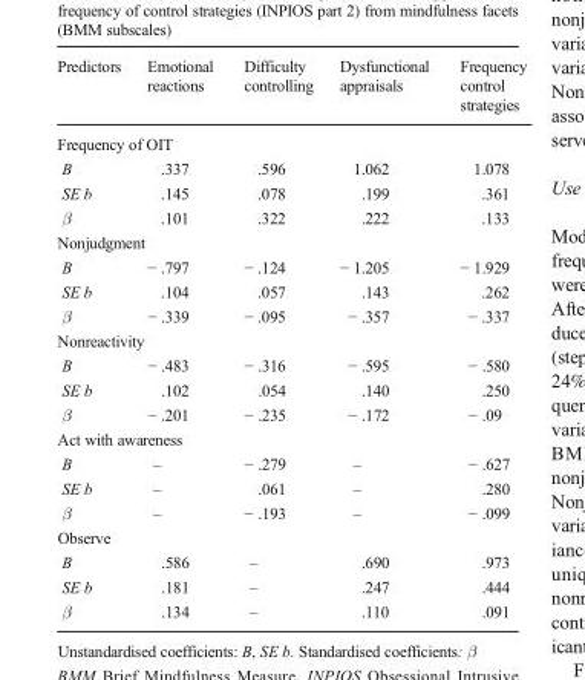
<table><thead><tr><td>Predictors</td><td>Emotional reactions</td><td>Difficulty controlling</td><td>Dysfunctional appraisals</td><td>Frequency control strategies</td></tr></thead><tbody><tr><td colspan="5">Frequency of OIT</td></tr><tr><td>B</td><td>.337</td><td>.596</td><td>1.062</td><td>1.078</td></tr><tr><td>SE b</td><td>.145</td><td>.078</td><td>.199</td><td>.361</td></tr><tr><td>β</td><td>.101</td><td>.322</td><td>.222</td><td>.133</td></tr><tr><td colspan="5">Nonjudgment</td></tr><tr><td>B</td><td>− .797</td><td>− .124</td><td>− 1.205</td><td>− 1.929</td></tr><tr><td>SE b</td><td>.104</td><td>.057</td><td>.143</td><td>.262</td></tr><tr><td>β</td><td>− .339</td><td>− .095</td><td>− .357</td><td>− .337</td></tr><tr><td colspan="5">Nonreactivity</td></tr><tr><td>B</td><td>− .483</td><td>− .316</td><td>− .595</td><td>− .580</td></tr><tr><td>SE b</td><td>.102</td><td>.054</td><td>.140</td><td>.250</td></tr><tr><td>β</td><td>− .201</td><td>− .235</td><td>− .172</td><td>− .09</td></tr><tr><td colspan="5">Act with awareness</td></tr><tr><td>B</td><td>–</td><td>− .279</td><td>–</td><td>− .627</td></tr><tr><td>SE b</td><td>–</td><td>.061</td><td>–</td><td>.280</td></tr><tr><td>β</td><td>–</td><td>− .193</td><td>–</td><td>− .099</td></tr><tr><td colspan="5">Observe</td></tr><tr><td>B</td><td>.586</td><td>–</td><td>.690</td><td>.973</td></tr><tr><td>SE b</td><td>.181</td><td>–</td><td>.247</td><td>.444</td></tr><tr><td>β</td><td>.134</td><td>–</td><td>.110</td><td>.091</td></tr></tbody></table>